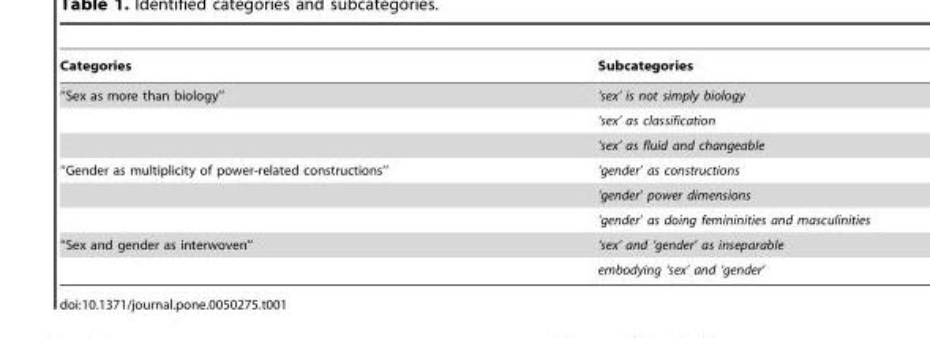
<table><thead><tr><td>Categories</td><td>Subcategories</td></tr></thead><tbody><tr><td rowspan="3">‘‘Sex as more than biology’’</td><td>‘sex’ is not simply biology</td></tr><tr><td>‘sex’ as classification</td></tr><tr><td>‘sex’ as fluid and changeable</td></tr><tr><td rowspan="3">‘‘Gender as multiplicity of power-related constructions’’</td><td>‘gender’ as constructions</td></tr><tr><td>‘gender’ power dimensions</td></tr><tr><td>‘gender’ as doing femininities and masculinities</td></tr><tr><td rowspan="2">‘‘Sex and gender as interwoven’’</td><td>‘sex’ and ‘gender’ as inseparable</td></tr><tr><td>embodying ‘sex’ and ‘gender’</td></tr></tbody></table>